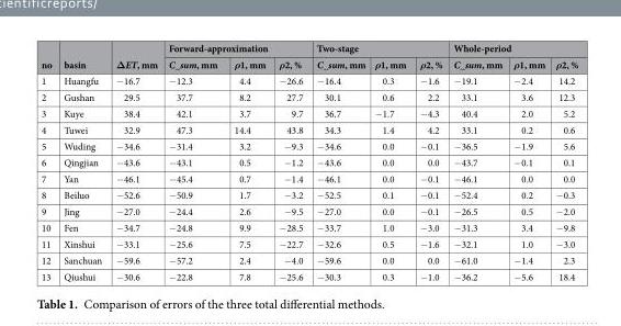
<table><thead><tr><td rowspan="2">no</td><td rowspan="2">basin</td><td rowspan="2">ΔET, mm</td><td colspan="3">Forward-approximation</td><td colspan="3">Two-stage</td><td colspan="3">Whole-period</td></tr><tr><td>C_sum, mm</td><td>ρ1, mm</td><td>ρ2, %</td><td>C_sum, mm</td><td>ρ1, mm</td><td>ρ2, %</td><td>C_sum, mm</td><td>ρ1, mm</td><td>ρ2, %</td></tr></thead><tbody><tr><td>1</td><td>Huangfu</td><td>−16.7</td><td>−12.3</td><td>4.4</td><td>−26.6</td><td>−16.4</td><td>0.3</td><td>−1.6</td><td>−19.1</td><td>−2.4</td><td>14.2</td></tr><tr><td>2</td><td>Gushan</td><td>29.5</td><td>37.7</td><td>8.2</td><td>27.7</td><td>30.1</td><td>0.6</td><td>2.2</td><td>33.1</td><td>3.6</td><td>12.3</td></tr><tr><td>3</td><td>Kuye</td><td>38.4</td><td>42.1</td><td>3.7</td><td>9.7</td><td>36.7</td><td>−1.7</td><td>−4.3</td><td>40.4</td><td>2.0</td><td>5.2</td></tr><tr><td>4</td><td>Tuwei</td><td>32.9</td><td>47.3</td><td>14.4</td><td>43.8</td><td>34.3</td><td>1.4</td><td>4.2</td><td>33.1</td><td>0.2</td><td>0.6</td></tr><tr><td>5</td><td>Wuding</td><td>−34.6</td><td>−31.4</td><td>3.2</td><td>−9.3</td><td>−34.6</td><td>0.0</td><td>−0.1</td><td>−36.5</td><td>−1.9</td><td>5.6</td></tr><tr><td>6</td><td>Qingjian</td><td>−43.6</td><td>−43.1</td><td>0.5</td><td>−1.2</td><td>−43.6</td><td>0.0</td><td>0.0</td><td>−43.7</td><td>−0.1</td><td>0.1</td></tr><tr><td>7</td><td>Yan</td><td>−46.1</td><td>−45.4</td><td>0.7</td><td>−1.4</td><td>−46.1</td><td>0.0</td><td>−0.1</td><td>−46.1</td><td>0.0</td><td>0.0</td></tr><tr><td>8</td><td>Beiluo</td><td>−52.6</td><td>−50.9</td><td>1.7</td><td>−3.2</td><td>−52.5</td><td>0.1</td><td>−0.1</td><td>−52.4</td><td>0.2</td><td>−0.3</td></tr><tr><td>9</td><td>Jing</td><td>−27.0</td><td>−24.4</td><td>2.6</td><td>−9.5</td><td>−27.0</td><td>0.0</td><td>−0.1</td><td>−26.5</td><td>0.5</td><td>−2.0</td></tr><tr><td>10</td><td>Fen</td><td>−34.7</td><td>−24.8</td><td>9.9</td><td>−28.5</td><td>−33.7</td><td>1.0</td><td>−3.0</td><td>−31.3</td><td>3.4</td><td>−9.8</td></tr><tr><td>11</td><td>Xinshui</td><td>−33.1</td><td>−25.6</td><td>7.5</td><td>−22.7</td><td>−32.6</td><td>0.5</td><td>−1.6</td><td>−32.1</td><td>1.0</td><td>−3.0</td></tr><tr><td>12</td><td>Sanchuan</td><td>−59.6</td><td>−57.2</td><td>2.4</td><td>−4.0</td><td>−59.6</td><td>0.0</td><td>0.0</td><td>−61.0</td><td>−1.4</td><td>2.3</td></tr><tr><td>13</td><td>Qiushui</td><td>−30.6</td><td>−22.8</td><td>7.8</td><td>−25.6</td><td>−30.3</td><td>0.3</td><td>−1.0</td><td>−36.2</td><td>−5.6</td><td>18.4</td></tr></tbody></table>